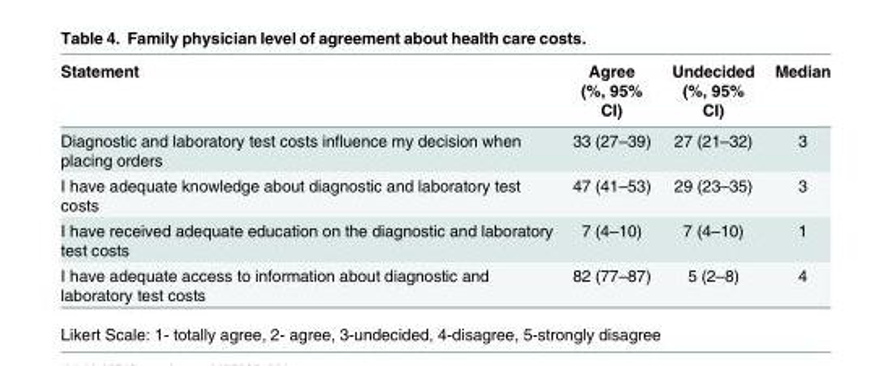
<table><thead><tr><td rowspan="2">Statement</td><td rowspan="2">Agree (%, 95% CI)</td><td rowspan="2">Undecided (%, 95% CI)</td><td rowspan="2">Median</td></tr><tr></tr></thead><tbody><tr><td>Diagnostic and laboratory test costs influence my decision when placing orders</td><td>33 (27–39)</td><td>27 (21–32)</td><td>3</td></tr><tr><td>I have adequate knowledge about diagnostic and laboratory test costs</td><td>47 (41–53)</td><td>29 (23–35)</td><td>3</td></tr><tr><td>I have received adequate education on the diagnostic and laboratory test costs</td><td>7 (4–10)</td><td>7 (4–10)</td><td>1</td></tr><tr><td>I have adequate access to information about diagnostic and laboratory test costs</td><td>82 (77–87)</td><td>5 (2–8)</td><td>4</td></tr></tbody></table>